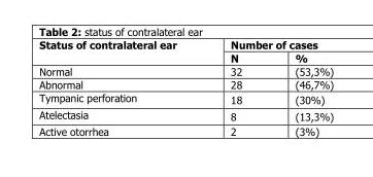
<table><thead><tr><td rowspan="2">Status of contralateral ear</td><td colspan="2">Number of cases</td></tr><tr><td>N</td><td>%</td></tr></thead><tbody><tr><td>Normal</td><td>32</td><td>(53,3%)</td></tr><tr><td>Abnormal</td><td>28</td><td>(46,7%)</td></tr><tr><td>Tympanic perforation</td><td>18</td><td>(30%)</td></tr><tr><td>Atelectasia</td><td>8</td><td>(13,3%)</td></tr><tr><td>Active otorrhea</td><td>2</td><td>(3%)</td></tr></tbody></table>